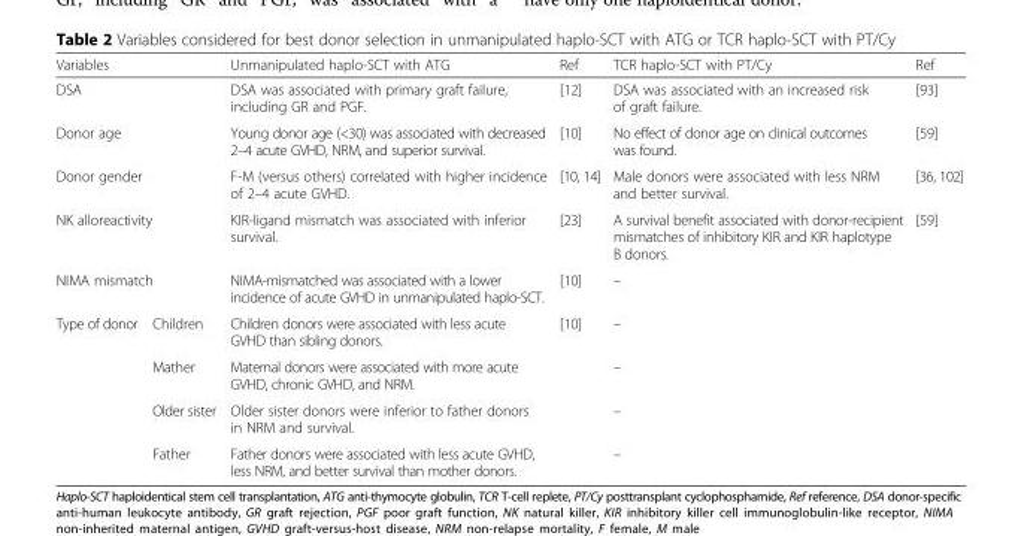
<table><thead><tr><td colspan="2">Variables</td><td>Unmanipulated haplo-SCT with ATG</td><td>Ref</td><td>TCR haplo-SCT with PT/Cy</td><td>Ref</td></tr></thead><tbody><tr><td colspan="2">DSA</td><td>DSA was associated with primary graft failure, including GR and PGF.</td><td>[12]</td><td>DSA was associated with an increased risk of graft failure.</td><td>[93]</td></tr><tr><td colspan="2">Donor age</td><td>Young donor age (&lt;30) was associated with decreased 2–4 acute GVHD, NRM, and superior survival.</td><td>[10]</td><td>No effect of donor age on clinical outcomes was found.</td><td>[59]</td></tr><tr><td colspan="2">Donor gender</td><td>F-M (versus others) correlated with higher incidence of 2–4 acute GVHD.</td><td>[10, 14]</td><td>Male donors were associated with less NRM and better survival.</td><td>[36, 102]</td></tr><tr><td colspan="2">NK alloreactivity</td><td>KIR-ligand mismatch was associated with inferior survival.</td><td>[23]</td><td>A survival benefit associated with donor-recipient mismatches of inhibitory KIR and KIR haplotype B donors.</td><td>[59]</td></tr><tr><td colspan="2">NIMA mismatch</td><td>NIMA-mismatched was associated with a lower incidence of acute GVHD in unmanipulated haplo-SCT.</td><td>[10]</td><td>–</td><td></td></tr><tr><td rowspan="4">Type of donor</td><td>Children</td><td>Children donors were associated with less acute GVHD than sibling donors.</td><td rowspan="4">[10]</td><td>–</td><td></td></tr><tr><td>Mather</td><td>Maternal donors were associated with more acute GVHD, chronic GVHD, and NRM.</td><td>–</td><td></td></tr><tr><td>Older sister</td><td>Older sister donors were inferior to father donors in NRM and survival.</td><td>–</td><td></td></tr><tr><td>Father</td><td>Father donors were associated with less acute GVHD, less NRM, and better survival than mother donors.</td><td>–</td><td></td></tr></tbody></table>